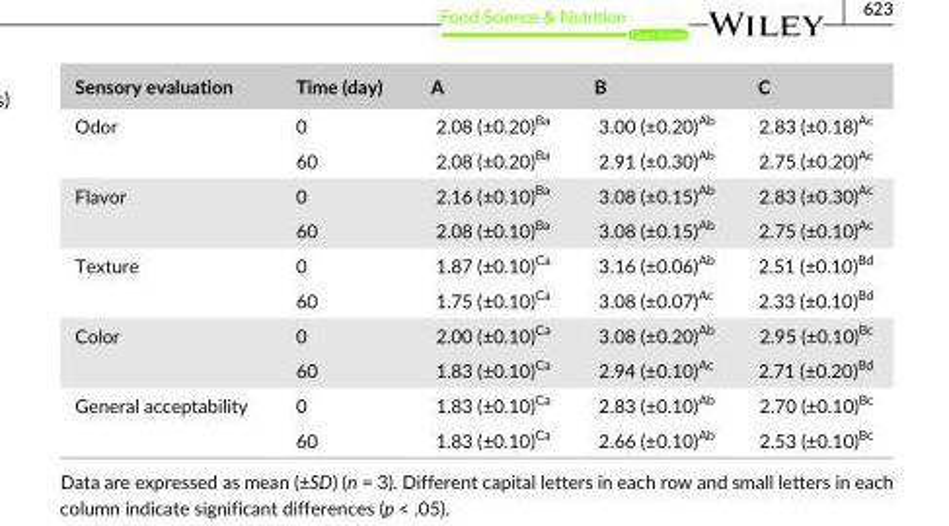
<table><thead><tr><td>Sensory evaluation</td><td>Time (day)</td><td>A</td><td>B</td><td>C</td></tr></thead><tbody><tr><td rowspan="2">Odor</td><td>0</td><td>2.08 (±0.20)<sup>Ba</sup></td><td>3.00 (±0.20)<sup>Ab</sup></td><td>2.83 (±0.18)<sup>Ac</sup></td></tr><tr><td>60</td><td>2.08 (±0.20)<sup>Ba</sup></td><td>2.91 (±0.30)<sup>Ab</sup></td><td>2.75 (±0.20)<sup>Ac</sup></td></tr><tr><td rowspan="2">Flavor</td><td>0</td><td>2.16 (±0.10)<sup>Ba</sup></td><td>3.08 (±0.15)<sup>Ab</sup></td><td>2.83 (±0.30)<sup>Ac</sup></td></tr><tr><td>60</td><td>2.08 (±0.10)<sup>Ba</sup></td><td>3.08 (±0.15)<sup>Ab</sup></td><td>2.75 (±0.10)<sup>Ac</sup></td></tr><tr><td rowspan="2">Texture</td><td>0</td><td>1.87 (±0.10)<sup>Ca</sup></td><td>3.16 (±0.06)<sup>Ab</sup></td><td>2.51 (±0.10)<sup>Bd</sup></td></tr><tr><td>60</td><td>1.75 (±0.10)<sup>Ca</sup></td><td>3.08 (±0.07)<sup>Ac</sup></td><td>2.33 (±0.10)<sup>Bd</sup></td></tr><tr><td rowspan="2">Color</td><td>0</td><td>2.00 (±0.10)<sup>Ca</sup></td><td>3.08 (±0.20)<sup>Ab</sup></td><td>2.95 (±0.10)<sup>Bc</sup></td></tr><tr><td>60</td><td>1.83 (±0.10)<sup>Ca</sup></td><td>2.94 (±0.10)<sup>Ac</sup></td><td>2.71 (±0.20)<sup>Bd</sup></td></tr><tr><td rowspan="2">General acceptability</td><td>0</td><td>1.83 (±0.10)<sup>Ca</sup></td><td>2.83 (±0.10)<sup>Ab</sup></td><td>2.70 (±0.10)<sup>Bc</sup></td></tr><tr><td>60</td><td>1.83 (±0.10)<sup>Ca</sup></td><td>2.66 (±0.10)<sup>Ab</sup></td><td>2.53 (±0.10)<sup>Bc</sup></td></tr></tbody></table>